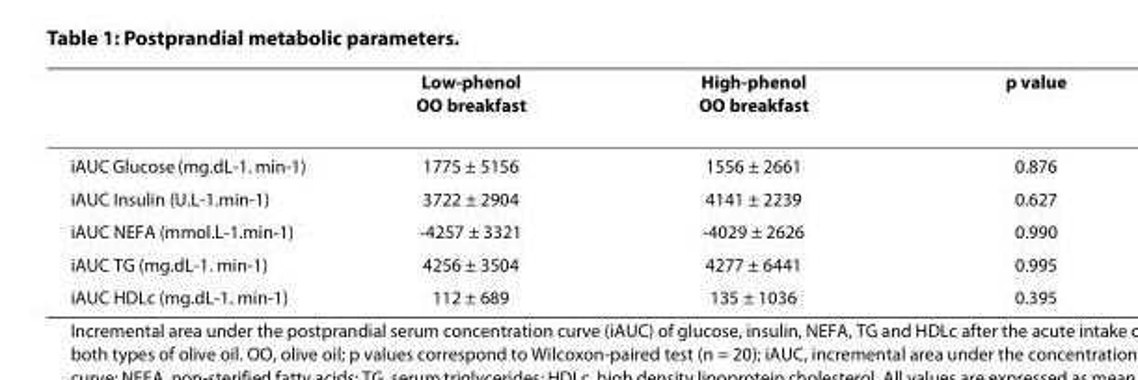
<table><thead><tr><td></td><td>Low-phenol OO breakfast</td><td>High-phenol OO breakfast</td><td>p value</td></tr></thead><tbody><tr><td>iAUC Glucose (mg.dL-1. min-1)</td><td>1775 ± 5156</td><td>1556 ± 2661</td><td>0.876</td></tr><tr><td>iAUC Insulin (U.L-1.min-1)</td><td>3722 ± 2904</td><td>4141 ± 2239</td><td>0.627</td></tr><tr><td>iAUC NEFA (mmol.L-1.min-1)</td><td>-4257 ± 3321</td><td>-4029 ± 2626</td><td>0.990</td></tr><tr><td>iAUC TG (mg.dL-1. min-1)</td><td>4256 ± 3504</td><td>4277 ± 6441</td><td>0.995</td></tr><tr><td>iAUC HDLc (mg.dL-1. min-1)</td><td>112 ± 689</td><td>135 ± 1036</td><td>0.395</td></tr></tbody></table>